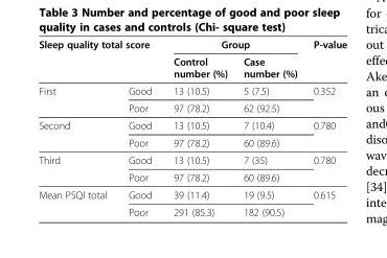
<table><thead><tr><td colspan="2">Sleep quality total score</td><td colspan="2">Group</td><td rowspan="2">P-value</td></tr><tr><td></td><td></td><td>Control number (%)</td><td>Case number (%)</td></tr></thead><tbody><tr><td rowspan="2">First</td><td>Good</td><td>13 (10.5)</td><td>5 (7.5)</td><td>0.352</td></tr><tr><td>Poor</td><td>97 (78.2)</td><td>62 (92.5)</td><td></td></tr><tr><td rowspan="2">Second</td><td>Good</td><td>13 (10.5)</td><td>7 (10.4)</td><td>0.780</td></tr><tr><td>Poor</td><td>97 (78.2)</td><td>60 (89.6)</td><td></td></tr><tr><td rowspan="2">Third</td><td>Good</td><td>13 (10.5)</td><td>7 (35)</td><td>0.780</td></tr><tr><td>Poor</td><td>97 (78.2)</td><td>60 (89.6)</td><td></td></tr><tr><td rowspan="2">Mean PSQI total</td><td>Good</td><td>39 (11.4)</td><td>19 (9.5)</td><td>0.615</td></tr><tr><td>Poor</td><td>291 (85.3)</td><td>182 (90.5)</td><td></td></tr></tbody></table>